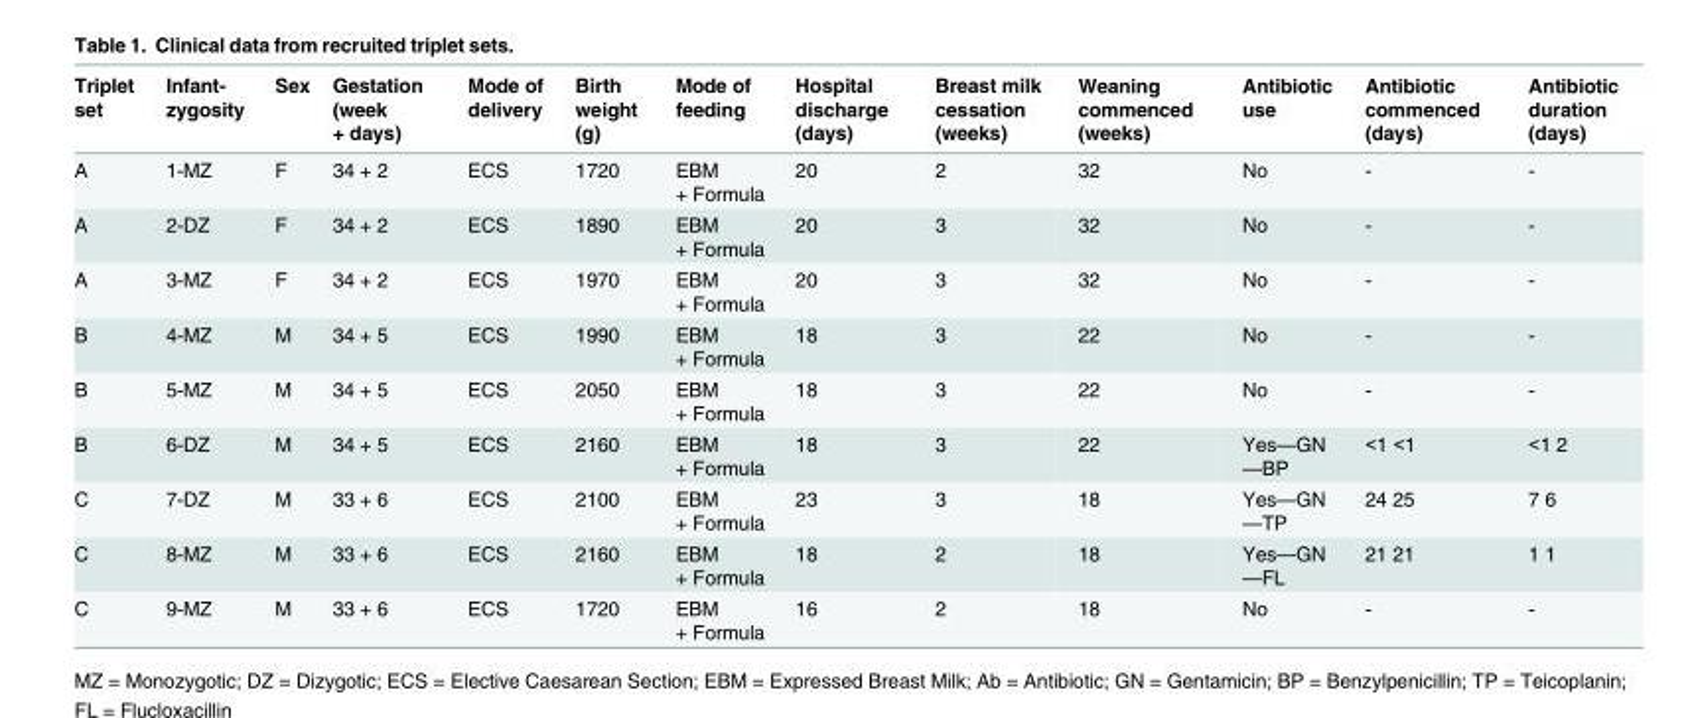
<table><thead><tr><td>Triplet set</td><td>Infant- zygosity</td><td>Sex</td><td>Gestation (week + days)</td><td>Mode of delivery</td><td>Birth weight (g)</td><td>Mode of feeding</td><td>Hospital discharge (days)</td><td>Breast milk cessation (weeks)</td><td>Weaning commenced (weeks)</td><td>Antibiotic use</td><td>Antibiotic commenced (days)</td><td>Antibiotic duration (days)</td></tr></thead><tbody><tr><td>A</td><td>1-MZ</td><td>F</td><td>34 + 2</td><td>ECS</td><td>1720</td><td>EBM + Formula</td><td>20</td><td>2</td><td>32</td><td>No</td><td>-</td><td>-</td></tr><tr><td>A</td><td>2-DZ</td><td>F</td><td>34 + 2</td><td>ECS</td><td>1890</td><td>EBM + Formula</td><td>20</td><td>3</td><td>32</td><td>No</td><td>-</td><td>-</td></tr><tr><td>A</td><td>3-MZ</td><td>F</td><td>34 + 2</td><td>ECS</td><td>1970</td><td>EBM + Formula</td><td>20</td><td>3</td><td>32</td><td>No</td><td>-</td><td>-</td></tr><tr><td>B</td><td>4-MZ</td><td>M</td><td>34 + 5</td><td>ECS</td><td>1990</td><td>EBM + Formula</td><td>18</td><td>3</td><td>22</td><td>No</td><td>-</td><td>-</td></tr><tr><td>B</td><td>5-MZ</td><td>M</td><td>34 + 5</td><td>ECS</td><td>2050</td><td>EBM + Formula</td><td>18</td><td>3</td><td>22</td><td>No</td><td>-</td><td>-</td></tr><tr><td>B</td><td>6-DZ</td><td>M</td><td>34 + 5</td><td>ECS</td><td>2160</td><td>EBM + Formula</td><td>18</td><td>3</td><td>22</td><td>Yes—GN —BP</td><td>&lt;1 &lt;1</td><td>&lt;1 2</td></tr><tr><td>C</td><td>7-DZ</td><td>M</td><td>33 + 6</td><td>ECS</td><td>2100</td><td>EBM + Formula</td><td>23</td><td>3</td><td>18</td><td>Yes—GN —TP</td><td>24 25</td><td>7 6</td></tr><tr><td>C</td><td>8-MZ</td><td>M</td><td>33 + 6</td><td>ECS</td><td>2160</td><td>EBM + Formula</td><td>18</td><td>2</td><td>18</td><td>Yes—GN —FL</td><td>21 21</td><td>1 1</td></tr><tr><td>C</td><td>9-MZ</td><td>M</td><td>33 + 6</td><td>ECS</td><td>1720</td><td>EBM + Formula</td><td>16</td><td>2</td><td>18</td><td>No</td><td>-</td><td>-</td></tr></tbody></table>